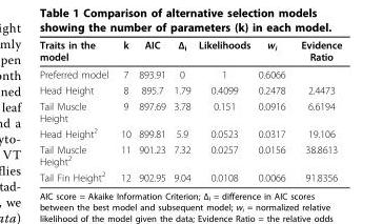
<table><thead><tr><td>Traits in the model</td><td>k</td><td>AIC</td><td>Δ<sub>i</sub></td><td>Likelihoods</td><td>w<sub>i</sub></td><td>Evidence Ratio</td></tr></thead><tbody><tr><td>Preferred model</td><td>7</td><td>893.91</td><td>0</td><td>1</td><td>0.6066</td><td></td></tr><tr><td>Head Height</td><td>8</td><td>895.7</td><td>1.79</td><td>0.4099</td><td>0.2478</td><td>2.4473</td></tr><tr><td>Tail Muscle Height</td><td>9</td><td>897.69</td><td>3.78</td><td>0.151</td><td>0.0916</td><td>6.6194</td></tr><tr><td>Head Height<sup>2</sup></td><td>10</td><td>899.81</td><td>5.9</td><td>0.0523</td><td>0.0317</td><td>19.106</td></tr><tr><td>Tail Muscle Height<sup>2</sup></td><td>11</td><td>901.23</td><td>7.32</td><td>0.0257</td><td>0.0156</td><td>38.8613</td></tr><tr><td>Tail Fin Height<sup>2</sup></td><td>12</td><td>902.95</td><td>9.04</td><td>0.0108</td><td>0.0066</td><td>91.8356</td></tr></tbody></table>